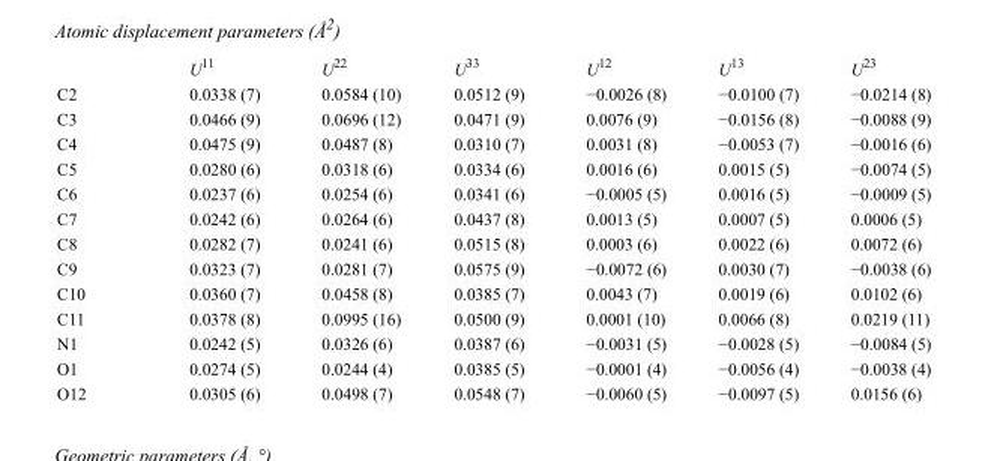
<table><thead><tr><td></td><td>U<sup>11</sup></td><td>U<sup>22</sup></td><td>U<sup>33</sup></td><td>U<sup>12</sup></td><td>U<sup>13</sup></td><td>U<sup>23</sup></td></tr></thead><tbody><tr><td>C2</td><td>0.0338 (7)</td><td>0.0584 (10)</td><td>0.0512 (9)</td><td>−0.0026 (8)</td><td>−0.0100 (7)</td><td>−0.0214 (8)</td></tr><tr><td>C3</td><td>0.0466 (9)</td><td>0.0696 (12)</td><td>0.0471 (9)</td><td>0.0076 (9)</td><td>−0.0156 (8)</td><td>−0.0088 (9)</td></tr><tr><td>C4</td><td>0.0475 (9)</td><td>0.0487 (8)</td><td>0.0310 (7)</td><td>0.0031 (8)</td><td>−0.0053 (7)</td><td>−0.0016 (6)</td></tr><tr><td>C5</td><td>0.0280 (6)</td><td>0.0318 (6)</td><td>0.0334 (6)</td><td>0.0016 (6)</td><td>0.0015 (5)</td><td>−0.0074 (5)</td></tr><tr><td>C6</td><td>0.0237 (6)</td><td>0.0254 (6)</td><td>0.0341 (6)</td><td>−0.0005 (5)</td><td>0.0016 (5)</td><td>−0.0009 (5)</td></tr><tr><td>C7</td><td>0.0242 (6)</td><td>0.0264 (6)</td><td>0.0437 (8)</td><td>0.0013 (5)</td><td>0.0007 (5)</td><td>0.0006 (5)</td></tr><tr><td>C8</td><td>0.0282 (7)</td><td>0.0241 (6)</td><td>0.0515 (8)</td><td>0.0003 (6)</td><td>0.0022 (6)</td><td>0.0072 (6)</td></tr><tr><td>C9</td><td>0.0323 (7)</td><td>0.0281 (7)</td><td>0.0575 (9)</td><td>−0.0072 (6)</td><td>0.0030 (7)</td><td>−0.0038 (6)</td></tr><tr><td>C10</td><td>0.0360 (7)</td><td>0.0458 (8)</td><td>0.0385 (7)</td><td>0.0043 (7)</td><td>0.0019 (6)</td><td>0.0102 (6)</td></tr><tr><td>C11</td><td>0.0378 (8)</td><td>0.0995 (16)</td><td>0.0500 (9)</td><td>0.0001 (10)</td><td>0.0066 (8)</td><td>0.0219 (11)</td></tr><tr><td>N1</td><td>0.0242 (5)</td><td>0.0326 (6)</td><td>0.0387 (6)</td><td>−0.0031 (5)</td><td>−0.0028 (5)</td><td>−0.0084 (5)</td></tr><tr><td>O1</td><td>0.0274 (5)</td><td>0.0244 (4)</td><td>0.0385 (5)</td><td>−0.0001 (4)</td><td>−0.0056 (4)</td><td>−0.0038 (4)</td></tr><tr><td>O12</td><td>0.0305 (6)</td><td>0.0498 (7)</td><td>0.0548 (7)</td><td>−0.0060 (5)</td><td>−0.0097 (5)</td><td>0.0156 (6)</td></tr></tbody></table>